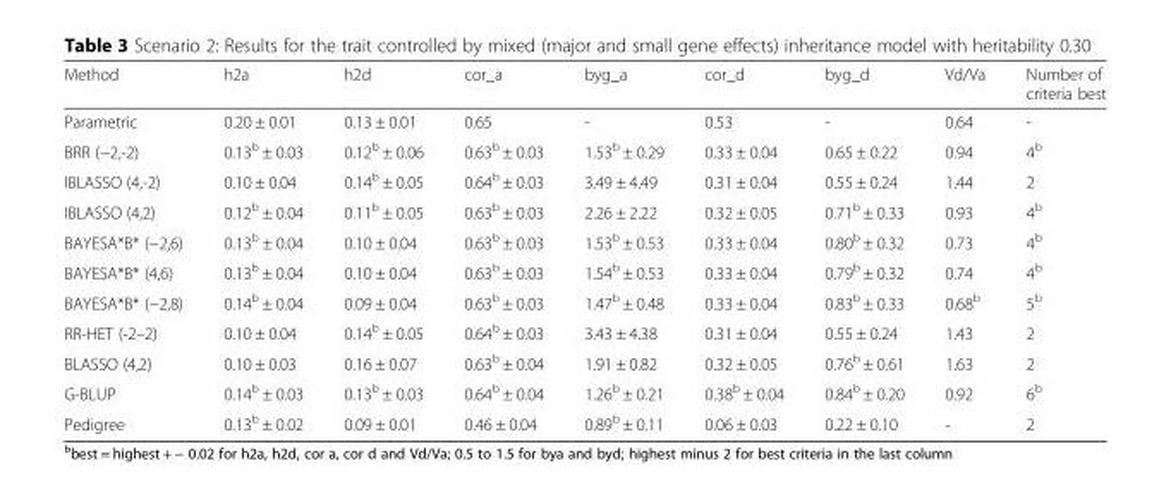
<table><thead><tr><td>Method</td><td>h2a</td><td>h2d</td><td>cor_a</td><td>byg_a</td><td>cor_d</td><td>byg_d</td><td>Vd/Va</td><td>Number of criteria best</td></tr></thead><tbody><tr><td>Parametric</td><td>0.20 ± 0.01</td><td>0.13 ± 0.01</td><td>0.65</td><td>-</td><td>0.53</td><td>-</td><td>0.64</td><td>-</td></tr><tr><td>BRR (−2,-2)</td><td>0.13<sup>b</sup> ± 0.03</td><td>0.12<sup>b</sup> ± 0.06</td><td>0.63<sup>b</sup> ± 0.03</td><td>1.53<sup>b</sup> ± 0.29</td><td>0.33 ± 0.04</td><td>0.65 ± 0.22</td><td>0.94</td><td>4<sup>b</sup></td></tr><tr><td>IBLASSO (4,-2)</td><td>0.10 ± 0.04</td><td>0.14<sup>b</sup> ± 0.05</td><td>0.64<sup>b</sup> ± 0.03</td><td>3.49 ± 4.49</td><td>0.31 ± 0.04</td><td>0.55 ± 0.24</td><td>1.44</td><td>2</td></tr><tr><td>IBLASSO (4,2)</td><td>0.12<sup>b</sup> ± 0.04</td><td>0.11<sup>b</sup> ± 0.05</td><td>0.63<sup>b</sup> ± 0.03</td><td>2.26 ± 2.22</td><td>0.32 ± 0.05</td><td>0.71<sup>b</sup> ± 0.33</td><td>0.93</td><td>4<sup>b</sup></td></tr><tr><td>BAYESA*B* (−2,6)</td><td>0.13<sup>b</sup> ± 0.04</td><td>0.10 ± 0.04</td><td>0.63<sup>b</sup> ± 0.03</td><td>1.53<sup>b</sup> ± 0.53</td><td>0.33 ± 0.04</td><td>0.80<sup>b</sup> ± 0.32</td><td>0.73</td><td>4<sup>b</sup></td></tr><tr><td>BAYESA*B* (4,6)</td><td>0.13<sup>b</sup> ± 0.04</td><td>0.10 ± 0.04</td><td>0.63<sup>b</sup> ± 0.03</td><td>1.54<sup>b</sup> ± 0.53</td><td>0.33 ± 0.04</td><td>0.79<sup>b</sup> ± 0.32</td><td>0.74</td><td>4<sup>b</sup></td></tr><tr><td>BAYESA*B* (−2,8)</td><td>0.14<sup>b</sup> ± 0.04</td><td>0.09 ± 0.04</td><td>0.63<sup>b</sup> ± 0.03</td><td>1.47<sup>b</sup> ± 0.48</td><td>0.33 ± 0.04</td><td>0.83<sup>b</sup> ± 0.33</td><td>0.68<sup>b</sup></td><td>5<sup>b</sup></td></tr><tr><td>RR-HET (-2–2)</td><td>0.10 ± 0.04</td><td>0.14<sup>b</sup> ± 0.05</td><td>0.64<sup>b</sup> ± 0.03</td><td>3.43 ± 4.38</td><td>0.31 ± 0.04</td><td>0.55 ± 0.24</td><td>1.43</td><td>2</td></tr><tr><td>BLASSO (4,2)</td><td>0.10 ± 0.03</td><td>0.16 ± 0.07</td><td>0.63<sup>b</sup> ± 0.04</td><td>1.91 ± 0.82</td><td>0.32 ± 0.05</td><td>0.76<sup>b</sup> ± 0.61</td><td>1.63</td><td>2</td></tr><tr><td>G-BLUP</td><td>0.14<sup>b</sup> ± 0.03</td><td>0.13<sup>b</sup> ± 0.03</td><td>0.64<sup>b</sup> ± 0.04</td><td>1.26<sup>b</sup> ± 0.21</td><td>0.38<sup>b</sup> ± 0.04</td><td>0.84<sup>b</sup> ± 0.20</td><td>0.92</td><td>6<sup>b</sup></td></tr><tr><td>Pedigree</td><td>0.13<sup>b</sup> ± 0.02</td><td>0.09 ± 0.01</td><td>0.46 ± 0.04</td><td>0.89<sup>b</sup> ± 0.11</td><td>0.06 ± 0.03</td><td>0.22 ± 0.10</td><td>-</td><td>2</td></tr></tbody></table>